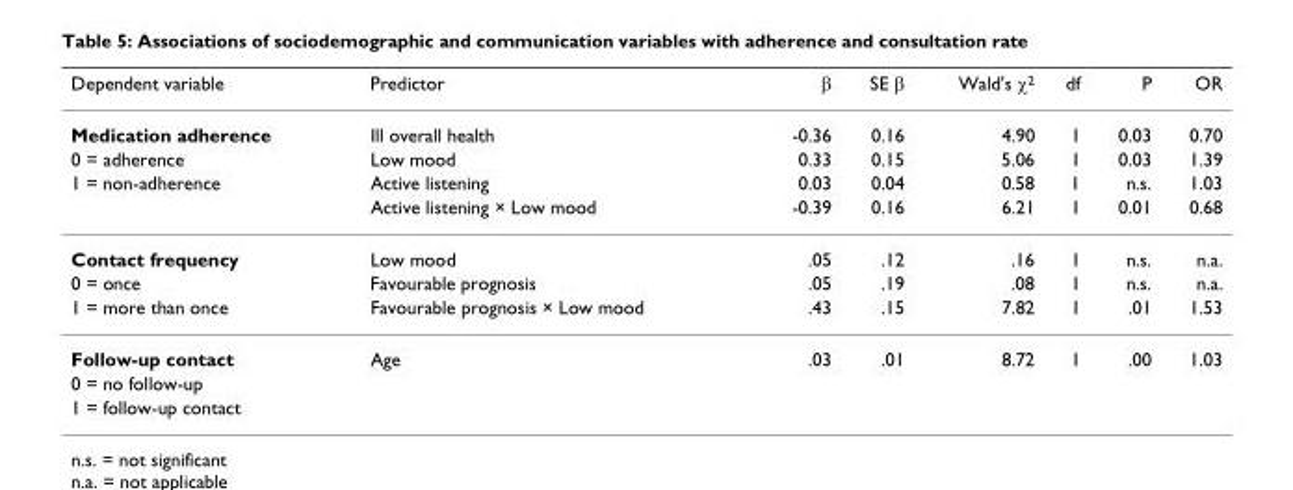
<table><thead><tr><td>Dependent variable</td><td>Predictor</td><td>β</td><td>SE β</td><td>Wald&#x27;s χ<sup>2</sup></td><td>df</td><td>P</td><td>OR</td></tr></thead><tbody><tr><td>Medication adherence</td><td>Ill overall health</td><td>-0.36</td><td>0.16</td><td>4.90</td><td>1</td><td>0.03</td><td>0.70</td></tr><tr><td>0 = adherence</td><td>Low mood</td><td>0.33</td><td>0.15</td><td>5.06</td><td>1</td><td>0.03</td><td>1.39</td></tr><tr><td rowspan="2">1 = non-adherence</td><td>Active listening</td><td>0.03</td><td>0.04</td><td>0.58</td><td>1</td><td>n.s.</td><td>1.03</td></tr><tr><td>Active listening × Low mood</td><td>-0.39</td><td>0.16</td><td>6.21</td><td>1</td><td>0.01</td><td>0.68</td></tr><tr><td>Contact frequency</td><td>Low mood</td><td>.05</td><td>.12</td><td>.16</td><td>1</td><td>n.s.</td><td>n.a.</td></tr><tr><td>0 = once</td><td>Favourable prognosis</td><td>.05</td><td>.19</td><td>.08</td><td>1</td><td>n.s.</td><td>n.a.</td></tr><tr><td>1 = more than once</td><td>Favourable prognosis × Low mood</td><td>.43</td><td>.15</td><td>7.82</td><td>1</td><td>.01</td><td>1.53</td></tr><tr><td>Follow-up contact</td><td>Age</td><td>.03</td><td>.01</td><td>8.72</td><td>1</td><td>.00</td><td>1.03</td></tr><tr><td colspan="8">0 = no follow-up</td></tr><tr><td>1 = follow-up contact</td><td></td><td></td><td></td><td></td><td></td><td></td><td></td></tr></tbody></table>